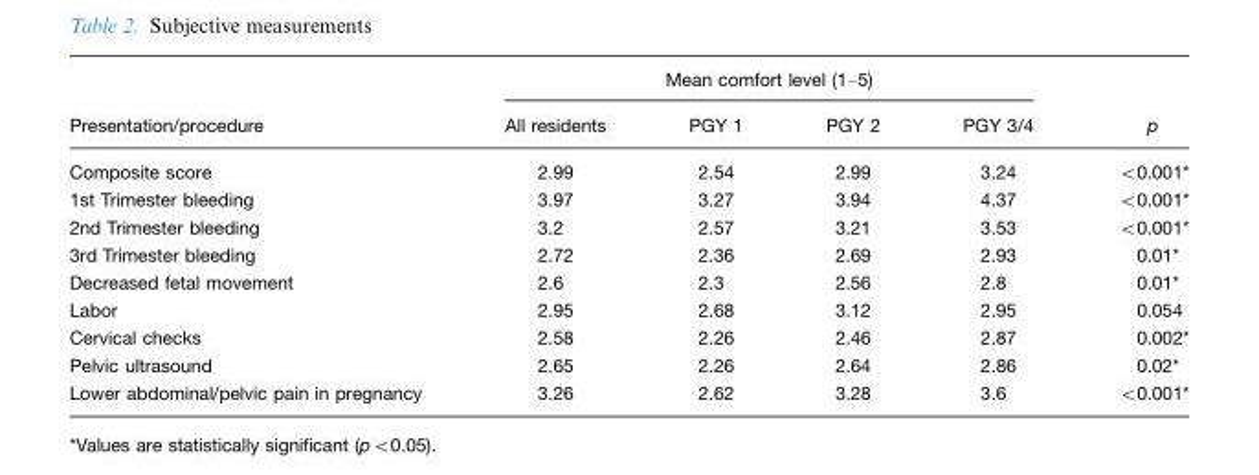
<table><thead><tr><td rowspan="2">Presentation/procedure</td><td colspan="4">Mean comfort level (1–5)</td><td rowspan="2">p</td></tr><tr><td>All residents</td><td>PGY 1</td><td>PGY 2</td><td>PGY 3/4</td></tr></thead><tbody><tr><td>Composite score</td><td>2.99</td><td>2.54</td><td>2.99</td><td>3.24</td><td>&lt;0.001*</td></tr><tr><td>1st Trimester bleeding</td><td>3.97</td><td>3.27</td><td>3.94</td><td>4.37</td><td>&lt;0.001*</td></tr><tr><td>2nd Trimester bleeding</td><td>3.2</td><td>2.57</td><td>3.21</td><td>3.53</td><td>&lt;0.001*</td></tr><tr><td>3rd Trimester bleeding</td><td>2.72</td><td>2.36</td><td>2.69</td><td>2.93</td><td>0.01*</td></tr><tr><td>Decreased fetal movement</td><td>2.6</td><td>2.3</td><td>2.56</td><td>2.8</td><td>0.01*</td></tr><tr><td>Labor</td><td>2.95</td><td>2.68</td><td>3.12</td><td>2.95</td><td>0.054</td></tr><tr><td>Cervical checks</td><td>2.58</td><td>2.26</td><td>2.46</td><td>2.87</td><td>0.002*</td></tr><tr><td>Pelvic ultrasound</td><td>2.65</td><td>2.26</td><td>2.64</td><td>2.86</td><td>0.02*</td></tr><tr><td>Lower abdominal/pelvic pain in pregnancy</td><td>3.26</td><td>2.62</td><td>3.28</td><td>3.6</td><td>&lt;0.001*</td></tr></tbody></table>